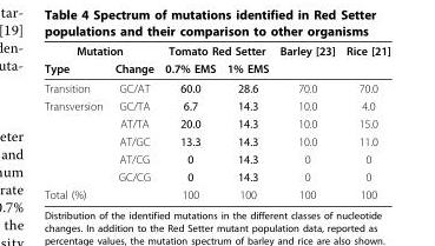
<table><thead><tr><td colspan="2">Mutation</td><td colspan="2">Tomato Red Setter</td><td rowspan="2">Barley [23]</td><td rowspan="2">Rice [21]</td></tr><tr><td>Type</td><td>Change</td><td>0.7% EMS</td><td>1% EMS</td></tr></thead><tbody><tr><td>Transition</td><td>GC/AT</td><td>60.0</td><td>28.6</td><td>70.0</td><td>70.0</td></tr><tr><td rowspan="5">Transversion</td><td>GC/TA</td><td>6.7</td><td>14.3</td><td>10.0</td><td>4.0</td></tr><tr><td>AT/TA</td><td>20.0</td><td>14.3</td><td>10.0</td><td>15.0</td></tr><tr><td>AT/GC</td><td>13.3</td><td>14.3</td><td>10.0</td><td>11.0</td></tr><tr><td>AT/CG</td><td>0</td><td>14.3</td><td>0</td><td>0</td></tr><tr><td>GC/CG</td><td>0</td><td>14.3</td><td>0</td><td>0</td></tr><tr><td>Total (%)</td><td></td><td>100</td><td>100</td><td>100</td><td>100</td></tr></tbody></table>